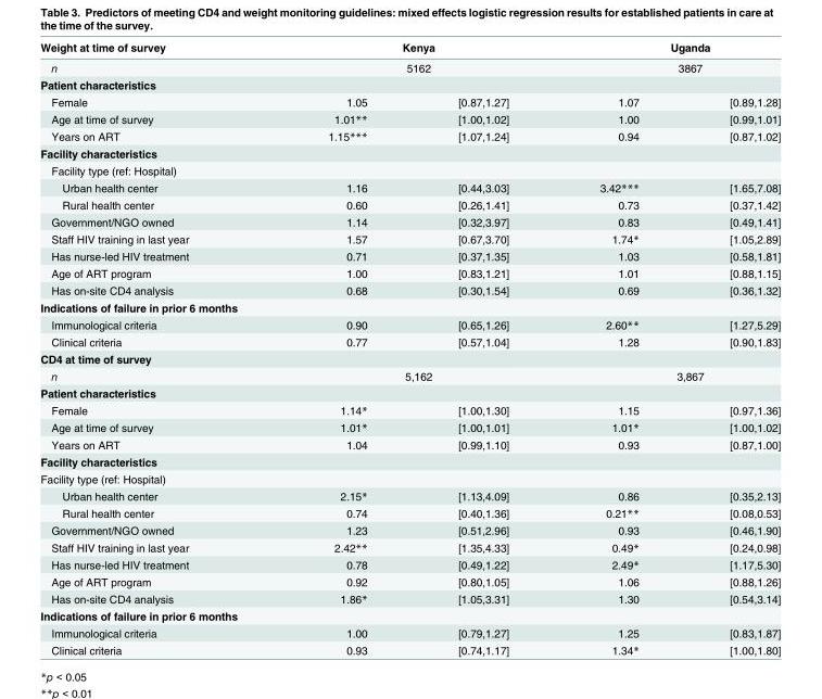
<table><thead><tr><td rowspan="3">Weight at time of survey n Patient characteristics</td><td rowspan="2" colspan="2">Kenya 5162</td><td rowspan="2" colspan="2">Uganda 3867</td></tr><tr></tr><tr><td></td><td></td><td></td><td></td></tr></thead><tbody><tr><td>Female</td><td>1.05</td><td>[0.87,1.27]</td><td>1.07</td><td>[0.89,1.28]</td></tr><tr><td>Age at time of survey</td><td>1.01**</td><td>[1.00,1.02]</td><td>1.00</td><td>[0.99,1.01]</td></tr><tr><td>Years on ART</td><td>1.15***</td><td>[1.07,1.24]</td><td>0.94</td><td>[0.87,1.02]</td></tr><tr><td colspan="5">Facility characteristics</td></tr><tr><td colspan="5">Facility type (ref: Hospital)</td></tr><tr><td>Urban health center</td><td>1.16</td><td>[0.44,3.03]</td><td>3.42***</td><td>[1.65,7.08]</td></tr><tr><td>Rural health center</td><td>0.60</td><td>[0.26,1.41]</td><td>0.73</td><td>[0.37,1.42]</td></tr><tr><td>Government/NGO owned</td><td>1.14</td><td>[0.32,3.97]</td><td>0.83</td><td>[0.49,1.41]</td></tr><tr><td>Staff HIV training in last year</td><td>1.57</td><td>[0.67,3.70]</td><td>1.74*</td><td>[1.05,2.89]</td></tr><tr><td>Has nurse-led HIV treatment</td><td>0.71</td><td>[0.37,1.35]</td><td>1.03</td><td>[0.58,1.81]</td></tr><tr><td>Age of ART program</td><td>1.00</td><td>[0.83,1.21]</td><td>1.01</td><td>[0.88,1.15]</td></tr><tr><td>Has on-site CD4 analysis</td><td>0.68</td><td>[0.30,1.54]</td><td>0.69</td><td>[0.36,1.32]</td></tr><tr><td colspan="5">Indications of failure in prior 6 months</td></tr><tr><td>Immunological criteria</td><td>0.90</td><td>[0.65,1.26]</td><td>2.60**</td><td>[1.27,5.29]</td></tr><tr><td>Clinical criteria</td><td>0.77</td><td>[0.57,1.04]</td><td>1.28</td><td>[0.90,1.83]</td></tr><tr><td colspan="5">CD4 at time of survey</td></tr><tr><td>n</td><td colspan="2">5,162</td><td colspan="2">3,867</td></tr><tr><td colspan="5">Patient characteristics</td></tr><tr><td>Female</td><td>1.14*</td><td>[1.00,1.30]</td><td>1.15</td><td>[0.97,1.36]</td></tr><tr><td>Age at time of survey</td><td>1.01*</td><td>[1.00,1.01]</td><td>1.01*</td><td>[1.00,1.02]</td></tr><tr><td>Years on ART</td><td>1.04</td><td>[0.99,1.10]</td><td>0.93</td><td>[0.87,1.00]</td></tr><tr><td colspan="5">Facility characteristics</td></tr><tr><td colspan="5">Facility type (ref: Hospital)</td></tr><tr><td>Urban health center</td><td>2.15*</td><td>[1.13,4.09]</td><td>0.86</td><td>[0.35,2.13]</td></tr><tr><td>Rural health center</td><td>0.74</td><td>[0.40,1.36]</td><td>0.21**</td><td>[0.08,0.53]</td></tr><tr><td>Government/NGO owned</td><td>1.23</td><td>[0.51,2.96]</td><td>0.93</td><td>[0.46,1.90]</td></tr><tr><td>Staff HIV training in last year</td><td>2.42**</td><td>[1.35,4.33]</td><td>0.49*</td><td>[0.24,0.98]</td></tr><tr><td>Has nurse-led HIV treatment</td><td>0.78</td><td>[0.49,1.22]</td><td>2.49*</td><td>[1.17,5.30]</td></tr><tr><td>Age of ART program</td><td>0.92</td><td>[0.80,1.05]</td><td>1.06</td><td>[0.88,1.26]</td></tr><tr><td>Has on-site CD4 analysis</td><td>1.86*</td><td>[1.05,3.31]</td><td>1.30</td><td>[0.54,3.14]</td></tr><tr><td colspan="5">Indications of failure in prior 6 months</td></tr><tr><td>Immunological criteria</td><td>1.00</td><td>[0.79,1.27]</td><td>1.25</td><td>[0.83,1.87]</td></tr><tr><td>Clinical criteria</td><td>0.93</td><td>[0.74,1.17]</td><td>1.34*</td><td>[1.00,1.80]</td></tr></tbody></table>